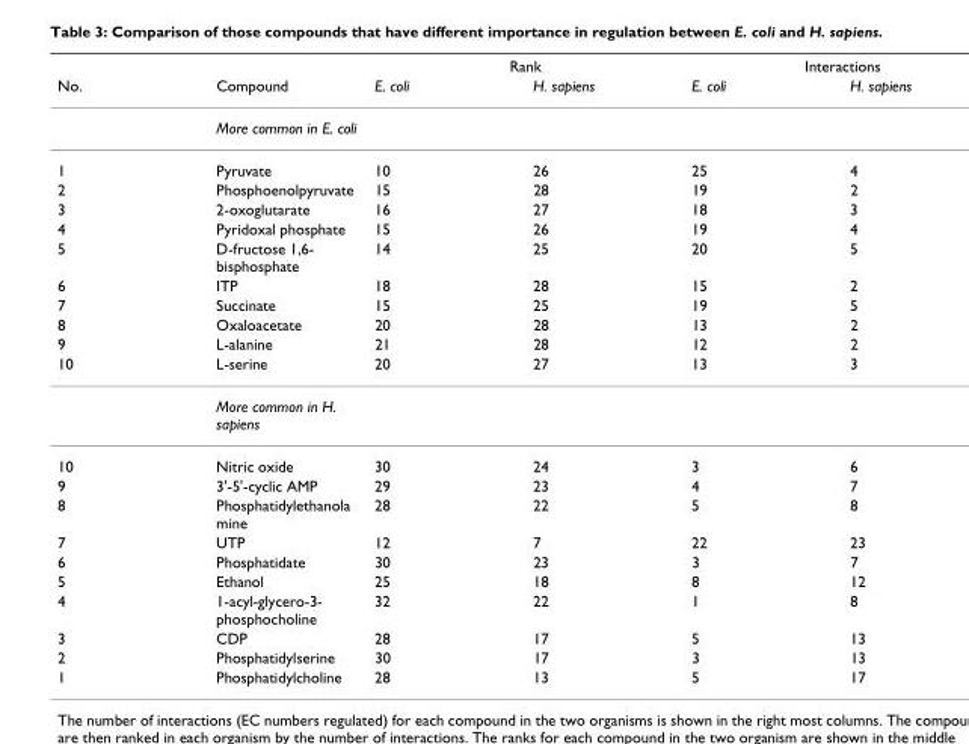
<table><thead><tr><td rowspan="2">No.</td><td rowspan="2">Compound</td><td colspan="2">Rank</td><td colspan="2">Interactions</td></tr><tr><td>E. coli</td><td>H. sapiens</td><td>E. coli</td><td>H. sapiens</td></tr></thead><tbody><tr><td></td><td>More common in E. coli</td><td></td><td></td><td></td><td></td></tr><tr><td>1</td><td>Pyruvate</td><td>10</td><td>26</td><td>25</td><td>4</td></tr><tr><td>2</td><td>Phosphoenolpyruvate</td><td>15</td><td>28</td><td>19</td><td>2</td></tr><tr><td>3</td><td>2-oxoglutarate</td><td>16</td><td>27</td><td>18</td><td>3</td></tr><tr><td>4</td><td>Pyridoxal phosphate</td><td>15</td><td>26</td><td>19</td><td>4</td></tr><tr><td>5</td><td>D-fructose 1,6- bisphosphate</td><td>14</td><td>25</td><td>20</td><td>5</td></tr><tr><td>6</td><td>ITP</td><td>18</td><td>28</td><td>15</td><td>2</td></tr><tr><td>7</td><td>Succinate</td><td>15</td><td>25</td><td>19</td><td>5</td></tr><tr><td>8</td><td>Oxaloacetate</td><td>20</td><td>28</td><td>13</td><td>2</td></tr><tr><td>9</td><td>L-alanine</td><td>21</td><td>28</td><td>12</td><td>2</td></tr><tr><td rowspan="2">10</td><td>L-serine</td><td>20</td><td>27</td><td>13</td><td>3</td></tr><tr><td>More common in H. sapiens</td><td></td><td></td><td></td><td></td></tr><tr><td>10</td><td>Nitric oxide</td><td>30</td><td>24</td><td>3</td><td>6</td></tr><tr><td>9</td><td>3&#x27;-5&#x27;-cyclic AMP</td><td>29</td><td>23</td><td>4</td><td>7</td></tr><tr><td>8</td><td>Phosphatidylethanola mine</td><td>28</td><td>22</td><td>5</td><td>8</td></tr><tr><td>7</td><td>UTP</td><td>12</td><td>7</td><td>22</td><td>23</td></tr><tr><td>6</td><td>Phosphatidate</td><td>30</td><td>23</td><td>3</td><td>7</td></tr><tr><td>5</td><td>Ethanol</td><td>25</td><td>18</td><td>8</td><td>12</td></tr><tr><td>4</td><td>1-acyl-glycero-3- phosphocholine</td><td>32</td><td>22</td><td>1</td><td>8</td></tr><tr><td>3</td><td>CDP</td><td>28</td><td>17</td><td>5</td><td>13</td></tr><tr><td>2</td><td>Phosphatidylserine</td><td>30</td><td>17</td><td>3</td><td>13</td></tr><tr><td>1</td><td>Phosphatidylcholine</td><td>28</td><td>13</td><td>5</td><td>17</td></tr></tbody></table>